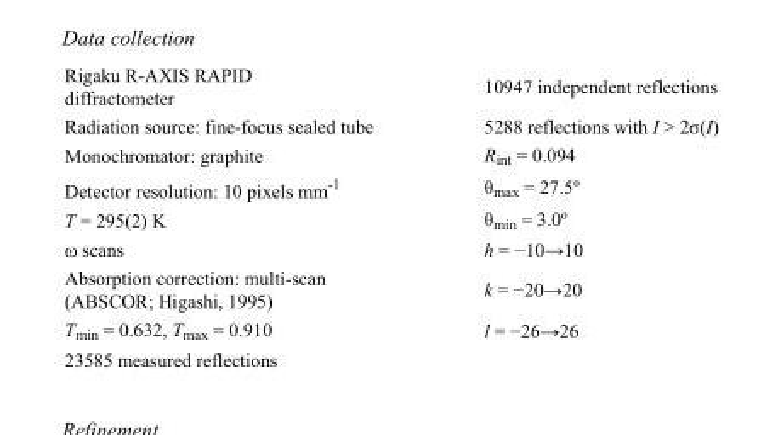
<table><tbody><tr><td>Rigaku R-AXIS RAPID diffractometer</td><td>10947 independent reflections</td></tr><tr><td>Radiation source: fine-focus sealed tube</td><td>5288 reflections with I &gt; 2σ(I)</td></tr><tr><td>Monochromator: graphite</td><td>R<sub>int</sub> = 0.094</td></tr><tr><td>Detector resolution: 10 pixels mm<sup>-1</sup></td><td>θ<sub>max</sub> = 27.5º</td></tr><tr><td>T = 295(2) K</td><td>θ<sub>min</sub> = 3.0º</td></tr><tr><td>ω scans</td><td>h = −10→10</td></tr><tr><td>Absorption correction: multi-scan (ABSCOR; Higashi, 1995)</td><td>k = −20→20</td></tr><tr><td>T<sub>min</sub> = 0.632, T<sub>max</sub> = 0.910</td><td>l = −26→26</td></tr><tr><td>23585 measured reflections</td><td></td></tr></tbody></table>